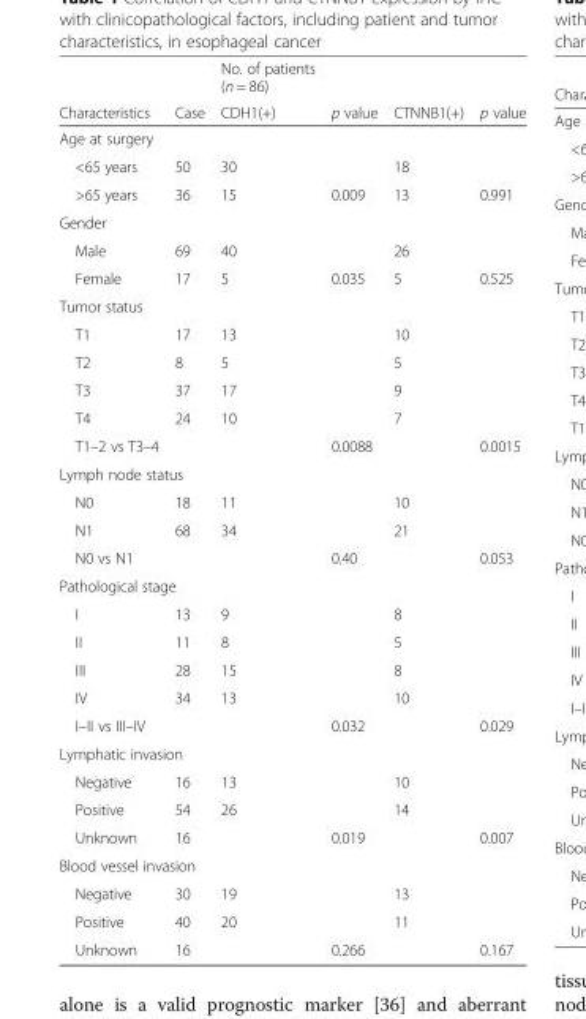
<table><thead><tr><td rowspan="2">Characteristics</td><td rowspan="2">Case</td><td rowspan="2">No. of patients (n = 86) CDH1(+)</td><td rowspan="2">p value</td><td rowspan="2">CTNNB1(+)</td><td rowspan="2">p value</td></tr><tr></tr></thead><tbody><tr><td colspan="6">Age at surgery</td></tr><tr><td>&lt;65 years</td><td>50</td><td>30</td><td></td><td>18</td><td></td></tr><tr><td>&gt;65 years</td><td>36</td><td>15</td><td>0.009</td><td>13</td><td>0.991</td></tr><tr><td colspan="6">Gender</td></tr><tr><td>Male</td><td>69</td><td>40</td><td></td><td>26</td><td></td></tr><tr><td>Female</td><td>17</td><td>5</td><td>0.035</td><td>5</td><td>0.525</td></tr><tr><td colspan="6">Tumor status</td></tr><tr><td>T1</td><td>17</td><td>13</td><td></td><td>10</td><td></td></tr><tr><td>T2</td><td>8</td><td>5</td><td></td><td>5</td><td></td></tr><tr><td>T3</td><td>37</td><td>17</td><td></td><td>9</td><td></td></tr><tr><td>T4</td><td>24</td><td>10</td><td></td><td>7</td><td></td></tr><tr><td>T1–2 vs T3–4</td><td></td><td></td><td>0.0088</td><td></td><td>0.0015</td></tr><tr><td colspan="6">Lymph node status</td></tr><tr><td>N0</td><td>18</td><td>11</td><td></td><td>10</td><td></td></tr><tr><td>N1</td><td>68</td><td>34</td><td></td><td>21</td><td></td></tr><tr><td>N0 vs N1</td><td></td><td></td><td>0.40</td><td></td><td>0.053</td></tr><tr><td colspan="6">Pathological stage</td></tr><tr><td>I</td><td>13</td><td>9</td><td></td><td>8</td><td></td></tr><tr><td>II</td><td>11</td><td>8</td><td></td><td>5</td><td></td></tr><tr><td>III</td><td>28</td><td>15</td><td></td><td>8</td><td></td></tr><tr><td>IV</td><td>34</td><td>13</td><td></td><td>10</td><td></td></tr><tr><td>I–II vs III–IV</td><td></td><td></td><td>0.032</td><td></td><td>0.029</td></tr><tr><td colspan="6">Lymphatic invasion</td></tr><tr><td>Negative</td><td>16</td><td>13</td><td></td><td>10</td><td></td></tr><tr><td>Positive</td><td>54</td><td>26</td><td></td><td>14</td><td></td></tr><tr><td>Unknown</td><td>16</td><td></td><td>0.019</td><td></td><td>0.007</td></tr><tr><td colspan="6">Blood vessel invasion</td></tr><tr><td>Negative</td><td>30</td><td>19</td><td></td><td>13</td><td></td></tr><tr><td>Positive</td><td>40</td><td>20</td><td></td><td>11</td><td></td></tr><tr><td>Unknown</td><td>16</td><td></td><td>0.266</td><td></td><td>0.167</td></tr></tbody></table>